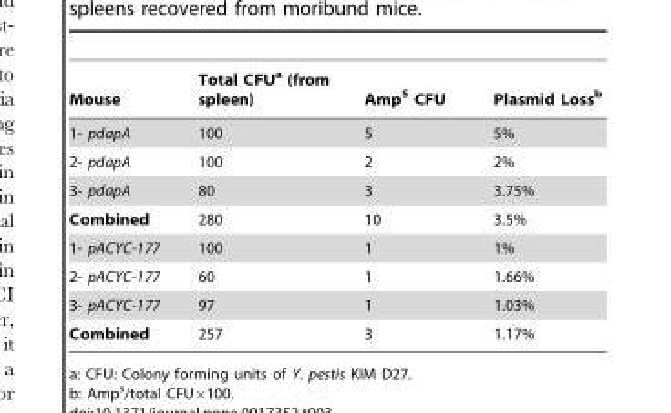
<table><thead><tr><td>Mouse</td><td>Total CFU<sup>a</sup> (from spleen)</td><td>Amp<sup>S</sup> CFU</td><td>Plasmid Loss<sup>b</sup></td></tr></thead><tbody><tr><td>1- pdapA</td><td>100</td><td>5</td><td>5%</td></tr><tr><td>2- pdapA</td><td>100</td><td>2</td><td>2%</td></tr><tr><td>3- pdapA</td><td>80</td><td>3</td><td>3.75%</td></tr><tr><td>Combined</td><td>280</td><td>10</td><td>3.5%</td></tr><tr><td>1- pACYC-177</td><td>100</td><td>1</td><td>1%</td></tr><tr><td>2- pACYC-177</td><td>60</td><td>1</td><td>1.66%</td></tr><tr><td>3- pACYC-177</td><td>97</td><td>1</td><td>1.03%</td></tr><tr><td>Combined</td><td>257</td><td>3</td><td>1.17%</td></tr></tbody></table>